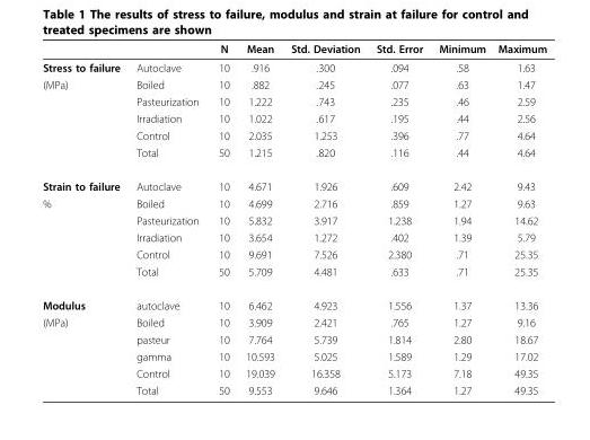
<table><thead><tr><td></td><td></td><td>N</td><td>Mean</td><td>Std. Deviation</td><td>Std. Error</td><td>Minimum</td><td>Maximum</td></tr></thead><tbody><tr><td>Stress to failure</td><td>Autoclave</td><td>10</td><td>.916</td><td>.300</td><td>.094</td><td>.58</td><td>1.63</td></tr><tr><td rowspan="5">(MPa)</td><td>Boiled</td><td>10</td><td>.882</td><td>.245</td><td>.077</td><td>.63</td><td>1.47</td></tr><tr><td>Pasteurization</td><td>10</td><td>1.222</td><td>.743</td><td>.235</td><td>.46</td><td>2.59</td></tr><tr><td>Irradiation</td><td>10</td><td>1.022</td><td>.617</td><td>.195</td><td>.44</td><td>2.56</td></tr><tr><td>Control</td><td>10</td><td>2.035</td><td>1.253</td><td>.396</td><td>.77</td><td>4.64</td></tr><tr><td>Total</td><td>50</td><td>1.215</td><td>.820</td><td>.116</td><td>.44</td><td>4.64</td></tr><tr><td>Strain to failure</td><td>Autoclave</td><td>10</td><td>4.671</td><td>1.926</td><td>.609</td><td>2.42</td><td>9.43</td></tr><tr><td rowspan="5">%</td><td>Boiled</td><td>10</td><td>4.699</td><td>2.716</td><td>.859</td><td>1.27</td><td>9.63</td></tr><tr><td>Pasteurization</td><td>10</td><td>5.832</td><td>3.917</td><td>1.238</td><td>1.94</td><td>14.62</td></tr><tr><td>Irradiation</td><td>10</td><td>3.654</td><td>1.272</td><td>.402</td><td>1.39</td><td>5.79</td></tr><tr><td>Control</td><td>10</td><td>9.691</td><td>7.526</td><td>2.380</td><td>.71</td><td>25.35</td></tr><tr><td>Total</td><td>50</td><td>5.709</td><td>4.481</td><td>.633</td><td>.71</td><td>25.35</td></tr><tr><td>Modulus</td><td>autoclave</td><td>10</td><td>6.462</td><td>4.923</td><td>1.556</td><td>1.37</td><td>13.36</td></tr><tr><td rowspan="5">(MPa)</td><td>Boiled</td><td>10</td><td>3.909</td><td>2.421</td><td>.765</td><td>1.27</td><td>9.16</td></tr><tr><td>pasteur</td><td>10</td><td>7.764</td><td>5.739</td><td>1.814</td><td>2.80</td><td>18.67</td></tr><tr><td>gamma</td><td>10</td><td>10.593</td><td>5.025</td><td>1.589</td><td>1.29</td><td>17.02</td></tr><tr><td>Control</td><td>10</td><td>19.039</td><td>16.358</td><td>5.173</td><td>7.18</td><td>49.35</td></tr><tr><td>Total</td><td>50</td><td>9.553</td><td>9.646</td><td>1.364</td><td>1.27</td><td>49.35</td></tr></tbody></table>